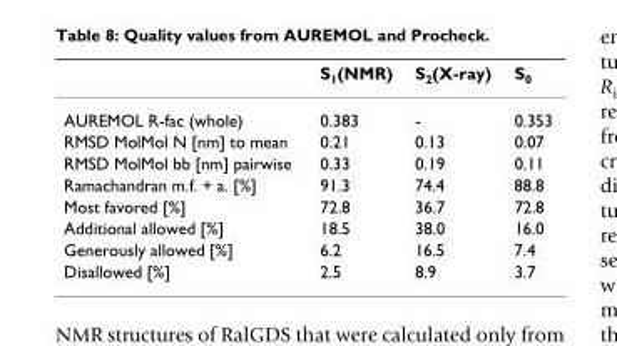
<table><thead><tr><td></td><td>S1(NMR)</td><td>S2(X-ray)</td><td>S0</td></tr></thead><tbody><tr><td>AUREMOL R-fac (whole)</td><td>0.383</td><td>-</td><td>0.353</td></tr><tr><td>RMSD MolMol N [nm] to mean</td><td>0.21</td><td>0.13</td><td>0.07</td></tr><tr><td>RMSD MolMol bb [nm] pairwise</td><td>0.33</td><td>0.19</td><td>0.11</td></tr><tr><td>Ramachandran m.f. + a. [%]</td><td>91.3</td><td>74.4</td><td>88.8</td></tr><tr><td>Most favored [%]</td><td>72.8</td><td>36.7</td><td>72.8</td></tr><tr><td>Additional allowed [%]</td><td>18.5</td><td>38.0</td><td>16.0</td></tr><tr><td>Generously allowed [%]</td><td>6.2</td><td>16.5</td><td>7.4</td></tr><tr><td>Disallowed [%]</td><td>2.5</td><td>8.9</td><td>3.7</td></tr></tbody></table>